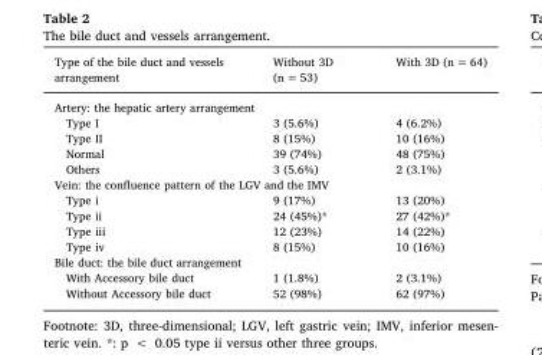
<table><thead><tr><td>Type of the bile duct and vessels arrangement</td><td>Without 3D (n = 53)</td><td>With 3D (n = 64)</td></tr></thead><tbody><tr><td colspan="3">Artery: the hepatic artery arrangement</td></tr><tr><td>Type I</td><td>3 (5.6%)</td><td>4 (6.2%)</td></tr><tr><td>Type II</td><td>8 (15%)</td><td>10 (16%)</td></tr><tr><td>Normal</td><td>39 (74%)</td><td>48 (75%)</td></tr><tr><td>Others</td><td>3 (5.6%)</td><td>2 (3.1%)</td></tr><tr><td colspan="3">Vein: the confluence pattern of the LGV and the IMV</td></tr><tr><td>Type i</td><td>9 (17%)</td><td>13 (20%)</td></tr><tr><td>Type ii</td><td>24 (45%)*</td><td>27 (42%)*</td></tr><tr><td>Type iii</td><td>12 (23%)</td><td>14 (22%)</td></tr><tr><td>Type iv</td><td>8 (15%)</td><td>10 (16%)</td></tr><tr><td colspan="3">Bile duct: the bile duct arrangement</td></tr><tr><td>With Accessory bile duct</td><td>1 (1.8%)</td><td>2 (3.1%)</td></tr><tr><td>Without Accessory bile duct</td><td>52 (98%)</td><td>62 (97%)</td></tr></tbody></table>